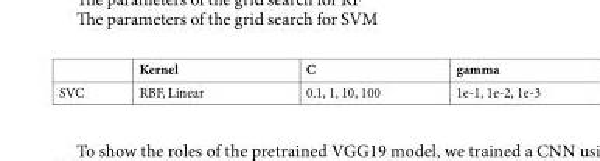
<table><thead><tr><td></td><td>Kernel</td><td>C</td><td>gamma</td></tr></thead><tbody><tr><td>SVC</td><td>RBF, Linear</td><td>0.1, 1, 10, 100</td><td>1e-1, 1e-2, 1e-3</td></tr></tbody></table>